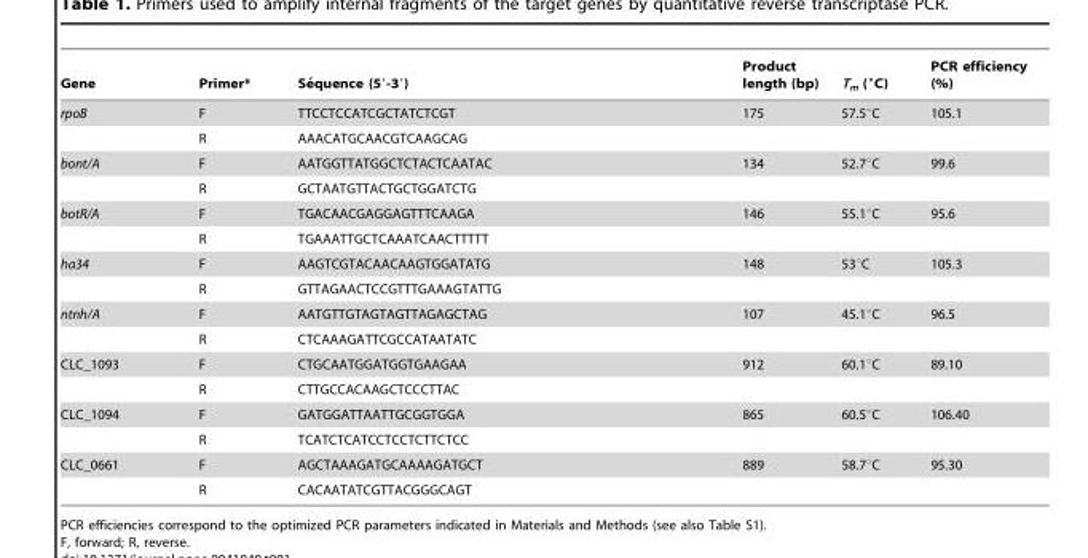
<table><thead><tr><td>Gene</td><td>Primer*</td><td>Se´quence (59-39)</td><td>Product length (bp)</td><td>T<sub>m</sub> (°C)</td><td>PCR efficiency (%)</td></tr></thead><tbody><tr><td rowspan="2">rpoB</td><td>F</td><td>TTCCTCCATCGCTATCTCGT</td><td>175</td><td>57.5°C</td><td>105.1</td></tr><tr><td>R</td><td>AAACATGCAACGTCAAGCAG</td><td></td><td></td><td></td></tr><tr><td rowspan="2">bont/A</td><td>F</td><td>AATGGTTATGGCTCTACTCAATAC</td><td>134</td><td>52.7°C</td><td>99.6</td></tr><tr><td>R</td><td>GCTAATGTTACTGCTGGATCTG</td><td></td><td></td><td></td></tr><tr><td rowspan="2">botR/A</td><td>F</td><td>TGACAACGAGGAGTTTCAAGA</td><td>146</td><td>55.1°C</td><td>95.6</td></tr><tr><td>R</td><td>TGAAATTGCTCAAATCAACTTTTT</td><td></td><td></td><td></td></tr><tr><td rowspan="2">ha34</td><td>F</td><td>AAGTCGTACAACAAGTGGATATG</td><td>148</td><td>53°C</td><td>105.3</td></tr><tr><td>R</td><td>GTTAGAACTCCGTTTGAAAGTATTG</td><td></td><td></td><td></td></tr><tr><td rowspan="2">ntnh/A</td><td>F</td><td>AATGTTGTAGTAGTTAGAGCTAG</td><td>107</td><td>45.1°C</td><td>96.5</td></tr><tr><td>R</td><td>CTCAAAGATTCGCCATAATATC</td><td></td><td></td><td></td></tr><tr><td rowspan="2">CLC_1093</td><td>F</td><td>CTGCAATGGATGGTGAAGAA</td><td>912</td><td>60.1°C</td><td>89.10</td></tr><tr><td>R</td><td>CTTGCCACAAGCTCCCTTAC</td><td></td><td></td><td></td></tr><tr><td rowspan="2">CLC_1094</td><td>F</td><td>GATGGATTAATTGCGGTGGA</td><td>865</td><td>60.5°C</td><td>106.40</td></tr><tr><td>R</td><td>TCATCTCATCCTCCTCTTCTCC</td><td></td><td></td><td></td></tr><tr><td rowspan="2">CLC_0661</td><td>F</td><td>AGCTAAAGATGCAAAAGATGCT</td><td>889</td><td>58.7°C</td><td>95.30</td></tr><tr><td>R</td><td>CACAATATCGTTACGGGCAGT</td><td></td><td></td><td></td></tr></tbody></table>